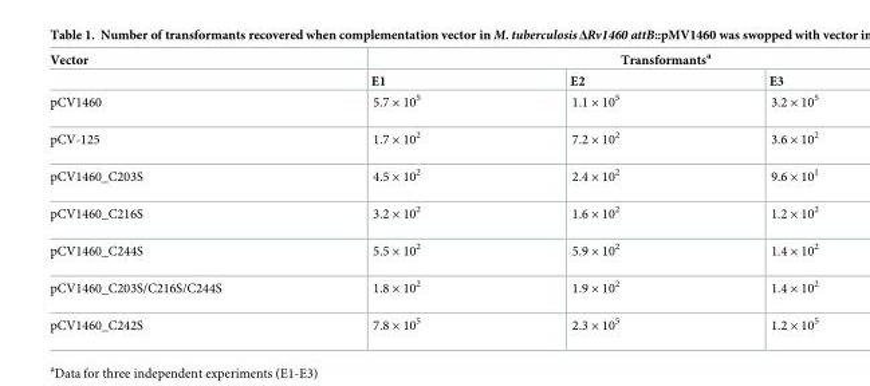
<table><thead><tr><td rowspan="2">Vector</td><td colspan="3">Transformants<sup>a</sup></td></tr><tr><td>E1</td><td>E2</td><td>E3</td></tr></thead><tbody><tr><td>pCV1460</td><td>5.7 × 10<sup>5</sup></td><td>1.1 × 10<sup>5</sup></td><td>3.2 × 10<sup>5</sup></td></tr><tr><td>pCV-125</td><td>1.7 × 10<sup>2</sup></td><td>7.2 × 10<sup>2</sup></td><td>3.6 × 10<sup>2</sup></td></tr><tr><td>pCV1460_C203S</td><td>4.5 × 10<sup>2</sup></td><td>2.4 × 10<sup>2</sup></td><td>9.6 × 10<sup>1</sup></td></tr><tr><td>pCV1460_C216S</td><td>3.2 × 10<sup>2</sup></td><td>1.6 × 10<sup>2</sup></td><td>1.2 × 10<sup>2</sup></td></tr><tr><td>pCV1460_C244S</td><td>5.5 × 10<sup>2</sup></td><td>5.9 × 10<sup>2</sup></td><td>1.4 × 10<sup>2</sup></td></tr><tr><td>pCV1460_C203S/C216S/C244S</td><td>1.8 × 10<sup>2</sup></td><td>1.9 × 10<sup>2</sup></td><td>1.4 × 10<sup>2</sup></td></tr><tr><td>pCV1460_C242S</td><td>7.8 × 10<sup>5</sup></td><td>2.3 × 10<sup>5</sup></td><td>1.2 × 10<sup>5</sup></td></tr></tbody></table>